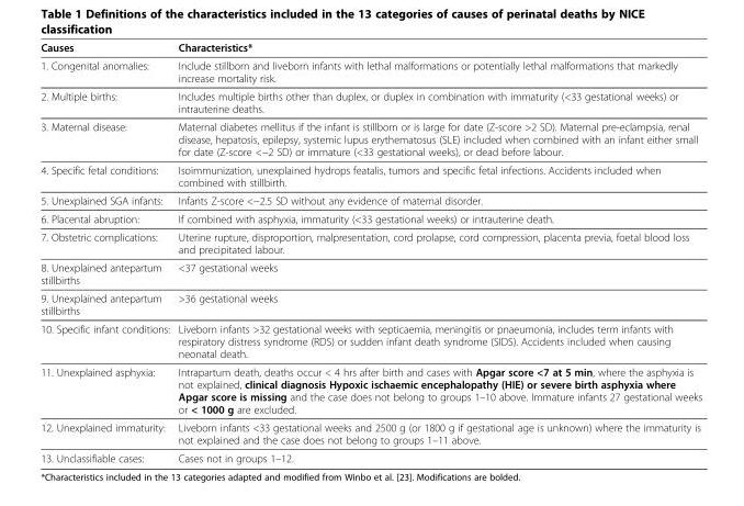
<table><thead><tr><td>Causes</td><td>Characteristics*</td></tr></thead><tbody><tr><td>1. Congenital anomalies:</td><td>Include stillborn and liveborn infants with lethal malformations or potentially lethal malformations that markedly increase mortality risk.</td></tr><tr><td>2. Multiple births:</td><td>Includes multiple births other than duplex, or duplex in combination with immaturity (&lt;33 gestational weeks) or intrauterine deaths.</td></tr><tr><td>3. Maternal disease:</td><td>Maternal diabetes mellitus if the infant is stillborn or is large for date (Z-score &gt;2 SD). Maternal pre-eclampsia, renal disease, hepatosis, epilepsy, systemic lupus erythematosus (SLE) included when combined with an infant either small for date (Z-score &lt;−2 SD) or immature (&lt;33 gestational weeks), or dead before labour.</td></tr><tr><td>4. Specific fetal conditions:</td><td>Isoimmunization, unexplained hydrops featalis, tumors and specific fetal infections. Accidents included when combined with stillbirth.</td></tr><tr><td>5. Unexplained SGA infants:</td><td>Infants Z-score &lt;−2.5 SD without any evidence of maternal disorder.</td></tr><tr><td>6. Placental abruption:</td><td>If combined with asphyxia, immaturity (&lt;33 gestational weeks) or intrauterine death.</td></tr><tr><td>7. Obstetric complications:</td><td>Uterine rupture, disproportion, malpresentation, cord prolapse, cord compression, placenta previa, foetal blood loss and precipitated labour.</td></tr><tr><td>8. Unexplained antepartum stillbirths</td><td>&lt;37 gestational weeks</td></tr><tr><td>9. Unexplained antepartum stillbirths</td><td>&gt;36 gestational weeks</td></tr><tr><td>10. Specific infant conditions:</td><td>Liveborn infants &gt;32 gestational weeks with septicaemia, meningitis or pnaeumonia, includes term infants with respiratory distress syndrome (RDS) or sudden infant death syndrome (SIDS). Accidents included when causing neonatal death.</td></tr><tr><td>11. Unexplained asphyxia:</td><td>Intrapartum death, deaths occur &lt; 4 hrs after birth and cases with Apgar score &lt;7 at 5 min, where the asphyxia is not explained, clinical diagnosis Hypoxic ischaemic encephalopathy (HIE) or severe birth asphyxia where Apgar score is missing and the case does not belong to groups 1–10 above. Immature infants 27 gestational weeks or &lt; 1000 g are excluded.</td></tr><tr><td>12. Unexplained immaturity:</td><td>Liveborn infants &lt;33 gestational weeks and 2500 g (or 1800 g if gestational age is unknown) where the immaturity is not explained and the case does not belong to groups 1–11 above.</td></tr><tr><td>13. Unclassifiable cases:</td><td>Cases not in groups 1–12.</td></tr></tbody></table>